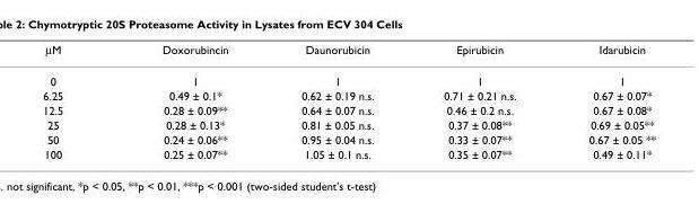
<table><thead><tr><td>µM</td><td>Doxorubincin</td><td>Daunorubicin</td><td>Epirubicin</td><td>Idarubicin</td></tr></thead><tbody><tr><td>0</td><td>1</td><td>1</td><td>1</td><td>1</td></tr><tr><td>6.25</td><td>0.49 ± 0.1*</td><td>0.62 ± 0.19 n.s.</td><td>0.71 ± 0.21 n.s.</td><td>0.67 ± 0.07*</td></tr><tr><td>12.5</td><td>0.28 ± 0.09**</td><td>0.64 ± 0.07 n.s.</td><td>0.46 ± 0.2 n.s.</td><td>0.67 ± 0.08*</td></tr><tr><td>25</td><td>0.28 ± 0.13*</td><td>0.81 ± 0.05 n.s.</td><td>0.37 ± 0.08**</td><td>0.69 ± 0.05**</td></tr><tr><td>50</td><td>0.24 ± 0.06**</td><td>0.95 ± 0.04 n.s.</td><td>0.33 ± 0.07**</td><td>0.67 ± 0.05 **</td></tr><tr><td>100</td><td>0.25 ± 0.07**</td><td>1.05 ± 0.1 n.s.</td><td>0.35 ± 0.07**</td><td>0.49 ± 0.11*</td></tr></tbody></table>